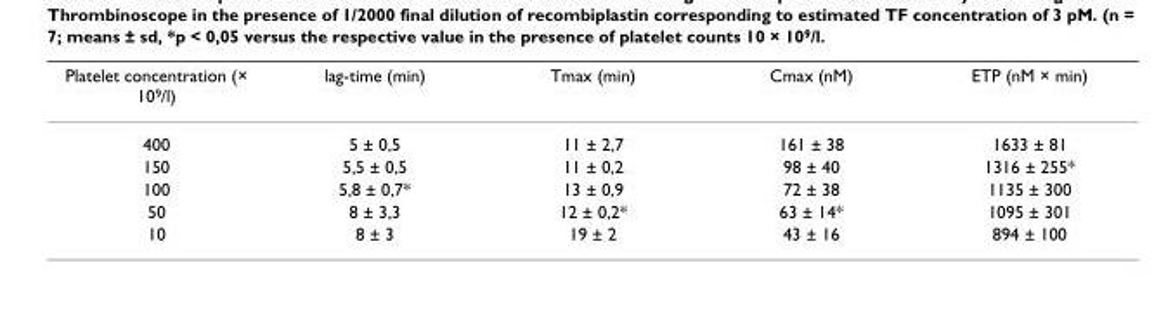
<table><thead><tr><td>Platelet concentration (× 10<sup>9</sup>/l)</td><td>lag-time (min)</td><td>Tmax (min)</td><td>Cmax (nM)</td><td>ETP (nM × min)</td></tr></thead><tbody><tr><td>400</td><td>5 ± 0,5</td><td>11 ± 2,7</td><td>161 ± 38</td><td>1633 ± 81</td></tr><tr><td>150</td><td>5,5 ± 0,5</td><td>11 ± 0,2</td><td>98 ± 40</td><td>1316 ± 255*</td></tr><tr><td>100</td><td>5,8 ± 0,7*</td><td>13 ± 0,9</td><td>72 ± 38</td><td>1135 ± 300</td></tr><tr><td>50</td><td>8 ± 3,3</td><td>12 ± 0,2*</td><td>63 ± 14*</td><td>1095 ± 301</td></tr><tr><td>10</td><td>8 ± 3</td><td>19 ± 2</td><td>43 ± 16</td><td>894 ± 100</td></tr></tbody></table>